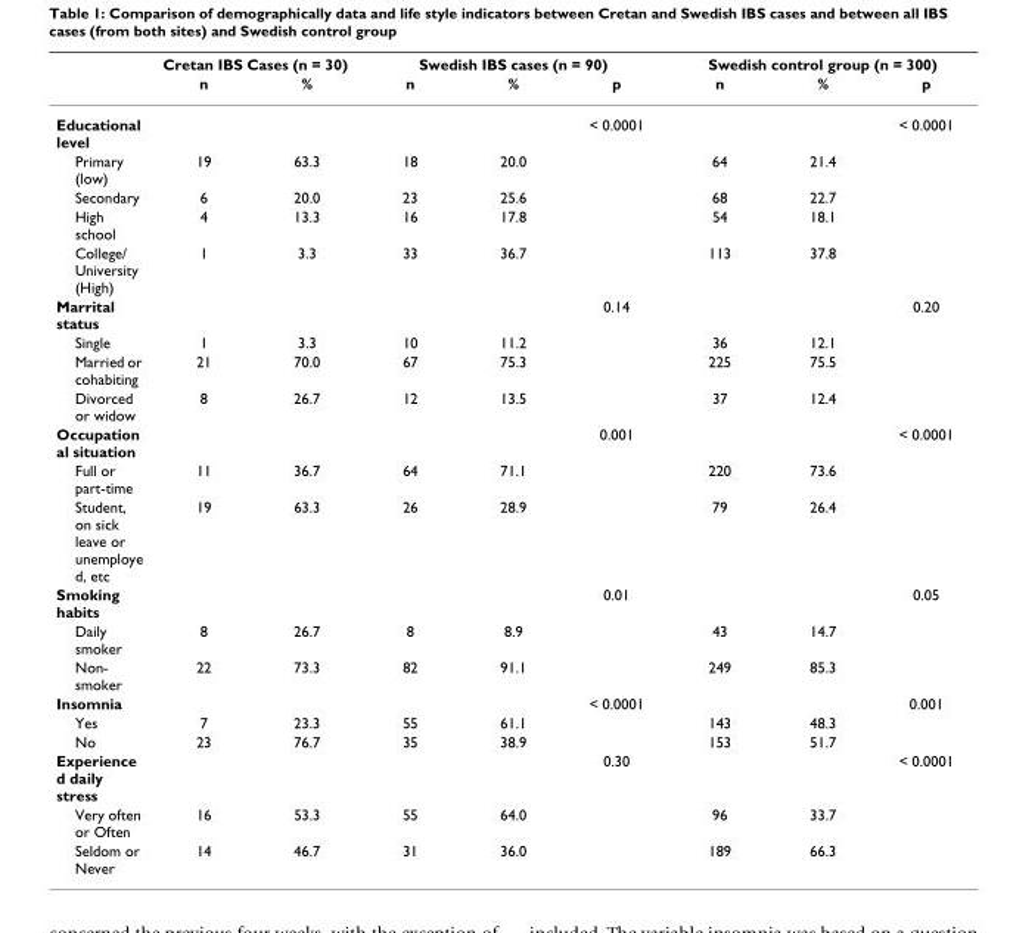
<table><thead><tr><td rowspan="2"></td><td colspan="2">Cretan IBS Cases (n = 30)</td><td colspan="3">Swedish IBS cases (n = 90)</td><td colspan="3">Swedish control group (n = 300)</td></tr><tr><td>n</td><td>%</td><td>n</td><td>%</td><td>p</td><td>n</td><td>%</td><td>p</td></tr></thead><tbody><tr><td>Educational level</td><td></td><td></td><td></td><td></td><td>&lt; 0.0001</td><td></td><td></td><td>&lt; 0.0001</td></tr><tr><td>Primary (low)</td><td>19</td><td>63.3</td><td>18</td><td>20.0</td><td></td><td>64</td><td>21.4</td><td></td></tr><tr><td>Secondary</td><td>6</td><td>20.0</td><td>23</td><td>25.6</td><td></td><td>68</td><td>22.7</td><td></td></tr><tr><td>High school</td><td>4</td><td>13.3</td><td>16</td><td>17.8</td><td></td><td>54</td><td>18.1</td><td></td></tr><tr><td>College/ University (High)</td><td>1</td><td>3.3</td><td>33</td><td>36.7</td><td></td><td>113</td><td>37.8</td><td></td></tr><tr><td>Marrital status</td><td></td><td></td><td></td><td></td><td>0.14</td><td></td><td></td><td>0.20</td></tr><tr><td>Single</td><td>1</td><td>3.3</td><td>10</td><td>11.2</td><td></td><td>36</td><td>12.1</td><td></td></tr><tr><td>Married or cohabiting</td><td>21</td><td>70.0</td><td>67</td><td>75.3</td><td></td><td>225</td><td>75.5</td><td></td></tr><tr><td>Divorced or widow</td><td>8</td><td>26.7</td><td>12</td><td>13.5</td><td></td><td>37</td><td>12.4</td><td></td></tr><tr><td>Occupation al situation</td><td></td><td></td><td></td><td></td><td>0.001</td><td></td><td></td><td>&lt; 0.0001</td></tr><tr><td>Full or part-time</td><td>11</td><td>36.7</td><td>64</td><td>71.1</td><td></td><td>220</td><td>73.6</td><td></td></tr><tr><td>Student, on sick leave or unemploye d, etc</td><td>19</td><td>63.3</td><td>26</td><td>28.9</td><td></td><td>79</td><td>26.4</td><td></td></tr><tr><td>Smoking habits</td><td></td><td></td><td></td><td></td><td>0.01</td><td></td><td></td><td>0.05</td></tr><tr><td>Daily smoker</td><td>8</td><td>26.7</td><td>8</td><td>8.9</td><td></td><td>43</td><td>14.7</td><td></td></tr><tr><td>Non- smoker</td><td>22</td><td>73.3</td><td>82</td><td>91.1</td><td></td><td>249</td><td>85.3</td><td></td></tr><tr><td>Insomnia</td><td></td><td></td><td></td><td></td><td>&lt; 0.0001</td><td></td><td></td><td>0.001</td></tr><tr><td>Yes</td><td>7</td><td>23.3</td><td>55</td><td>61.1</td><td></td><td>143</td><td>48.3</td><td></td></tr><tr><td>No</td><td>23</td><td>76.7</td><td>35</td><td>38.9</td><td></td><td>153</td><td>51.7</td><td></td></tr><tr><td>Experience d daily stress</td><td></td><td></td><td></td><td></td><td>0.30</td><td></td><td></td><td>&lt; 0.0001</td></tr><tr><td>Very often or Often</td><td>16</td><td>53.3</td><td>55</td><td>64.0</td><td></td><td>96</td><td>33.7</td><td></td></tr><tr><td>Seldom or Never</td><td>14</td><td>46.7</td><td>31</td><td>36.0</td><td></td><td>189</td><td>66.3</td><td></td></tr></tbody></table>